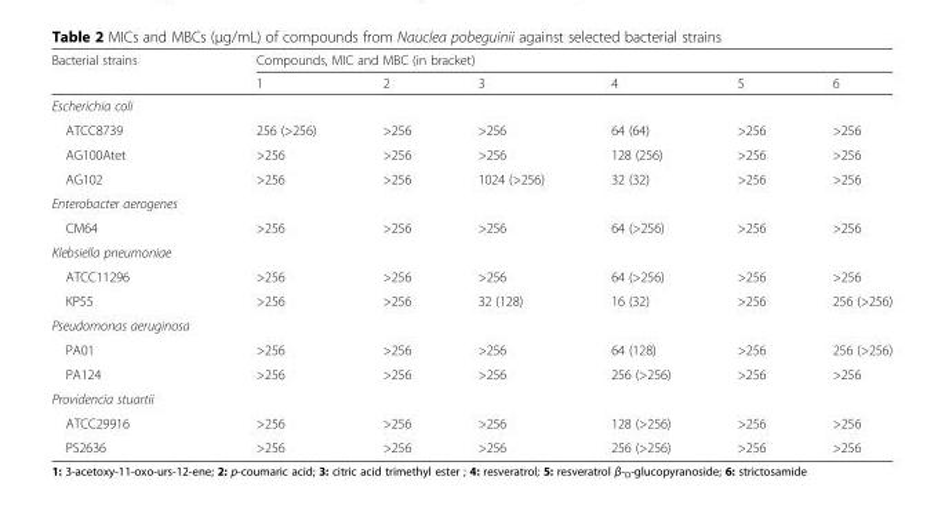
<table><thead><tr><td rowspan="2">Bacterial strains</td><td colspan="6">Compounds, MIC and MBC (in bracket)</td></tr><tr><td>1</td><td>2</td><td>3</td><td>4</td><td>5</td><td>6</td></tr></thead><tbody><tr><td colspan="7">Escherichia coli</td></tr><tr><td>ATCC8739</td><td>256 (&gt;256)</td><td>&gt;256</td><td>&gt;256</td><td>64 (64)</td><td>&gt;256</td><td>&gt;256</td></tr><tr><td>AG100Atet</td><td>&gt;256</td><td>&gt;256</td><td>&gt;256</td><td>128 (256)</td><td>&gt;256</td><td>&gt;256</td></tr><tr><td>AG102</td><td>&gt;256</td><td>&gt;256</td><td>1024 (&gt;256)</td><td>32 (32)</td><td>&gt;256</td><td>&gt;256</td></tr><tr><td colspan="7">Enterobacter aerogenes</td></tr><tr><td>CM64</td><td>&gt;256</td><td>&gt;256</td><td>&gt;256</td><td>64 (&gt;256)</td><td>&gt;256</td><td>&gt;256</td></tr><tr><td colspan="7">Klebsiella pneumoniae</td></tr><tr><td>ATCC11296</td><td>&gt;256</td><td>&gt;256</td><td>&gt;256</td><td>64 (&gt;256)</td><td>&gt;256</td><td>&gt;256</td></tr><tr><td>KP55</td><td>&gt;256</td><td>&gt;256</td><td>32 (128)</td><td>16 (32)</td><td>&gt;256</td><td>256 (&gt;256)</td></tr><tr><td colspan="7">Pseudomonas aeruginosa</td></tr><tr><td>PA01</td><td>&gt;256</td><td>&gt;256</td><td>&gt;256</td><td>64 (128)</td><td>&gt;256</td><td>256 (&gt;256)</td></tr><tr><td>PA124</td><td>&gt;256</td><td>&gt;256</td><td>&gt;256</td><td>256 (&gt;256)</td><td>&gt;256</td><td>&gt;256</td></tr><tr><td colspan="7">Providencia stuartii</td></tr><tr><td>ATCC29916</td><td>&gt;256</td><td>&gt;256</td><td>&gt;256</td><td>128 (&gt;256)</td><td>&gt;256</td><td>&gt;256</td></tr><tr><td>PS2636</td><td>&gt;256</td><td>&gt;256</td><td>&gt;256</td><td>256 (&gt;256)</td><td>&gt;256</td><td>&gt;256</td></tr></tbody></table>